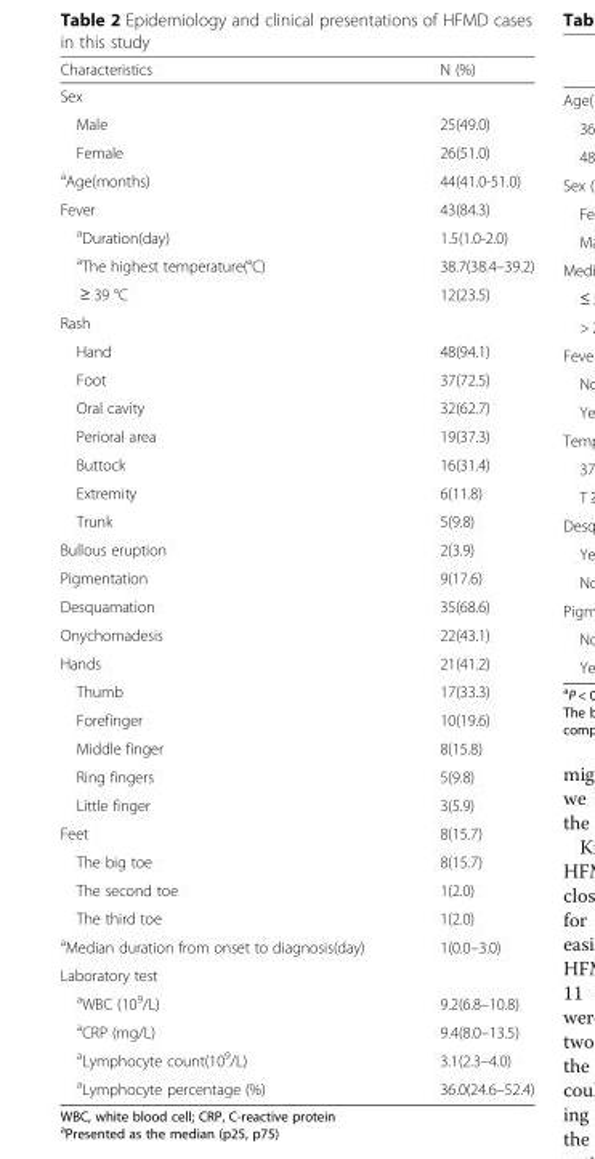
<table><thead><tr><td>Characteristics</td><td>N (%)</td></tr></thead><tbody><tr><td colspan="2">Sex</td></tr><tr><td>Male</td><td>25(49.0)</td></tr><tr><td>Female</td><td>26(51.0)</td></tr><tr><td><sup>a</sup>Age(months)</td><td>44(41.0-51.0)</td></tr><tr><td>Fever</td><td>43(84.3)</td></tr><tr><td><sup>a</sup>Duration(day)</td><td>1.5(1.0-2.0)</td></tr><tr><td><sup>a</sup>The highest temperature(°C)</td><td>38.7(38.4–39.2)</td></tr><tr><td>≥ 39 °C</td><td>12(23.5)</td></tr><tr><td colspan="2">Rash</td></tr><tr><td>Hand</td><td>48(94.1)</td></tr><tr><td>Foot</td><td>37(72.5)</td></tr><tr><td>Oral cavity</td><td>32(62.7)</td></tr><tr><td>Perioral area</td><td>19(37.3)</td></tr><tr><td>Buttock</td><td>16(31.4)</td></tr><tr><td>Extremity</td><td>6(11.8)</td></tr><tr><td>Trunk</td><td>5(9.8)</td></tr><tr><td>Bullous eruption</td><td>2(3.9)</td></tr><tr><td>Pigmentation</td><td>9(17.6)</td></tr><tr><td>Desquamation</td><td>35(68.6)</td></tr><tr><td>Onychomadesis</td><td>22(43.1)</td></tr><tr><td>Hands</td><td>21(41.2)</td></tr><tr><td>Thumb</td><td>17(33.3)</td></tr><tr><td>Forefinger</td><td>10(19.6)</td></tr><tr><td>Middle finger</td><td>8(15.8)</td></tr><tr><td>Ring fingers</td><td>5(9.8)</td></tr><tr><td>Little finger</td><td>3(5.9)</td></tr><tr><td>Feet</td><td>8(15.7)</td></tr><tr><td>The big toe</td><td>8(15.7)</td></tr><tr><td>The second toe</td><td>1(2.0)</td></tr><tr><td>The third toe</td><td>1(2.0)</td></tr><tr><td><sup>a</sup>Median duration from onset to diagnosis(day)</td><td>1(0.0–3.0)</td></tr><tr><td colspan="2">Laboratory test</td></tr><tr><td><sup>a</sup>WBC (10<sup>9</sup>/L)</td><td>9.2(6.8–10.8)</td></tr><tr><td><sup>a</sup>CRP (mg/L)</td><td>9.4(8.0–13.5)</td></tr><tr><td><sup>a</sup>Lymphocyte count(10<sup>9</sup>/L)</td><td>3.1(2.3–4.0)</td></tr><tr><td><sup>a</sup>Lymphocyte percentage (%)</td><td>36.0(24.6–52.4)</td></tr></tbody></table>